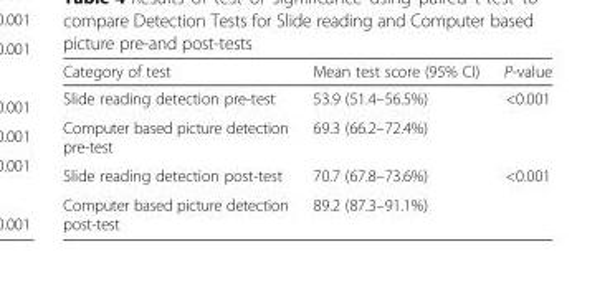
<table><thead><tr><td>Category of test</td><td>Mean test score (95% CI)</td><td>P-value</td></tr></thead><tbody><tr><td>Slide reading detection pre-test</td><td>53.9 (51.4–56.5%)</td><td rowspan="2">&lt;0.001</td></tr><tr><td>Computer based picture detection pre-test</td><td>69.3 (66.2–72.4%)</td></tr><tr><td>Slide reading detection post-test</td><td>70.7 (67.8–73.6%)</td><td rowspan="2">&lt;0.001</td></tr><tr><td>Computer based picture detection post-test</td><td>89.2 (87.3–91.1%)</td></tr></tbody></table>